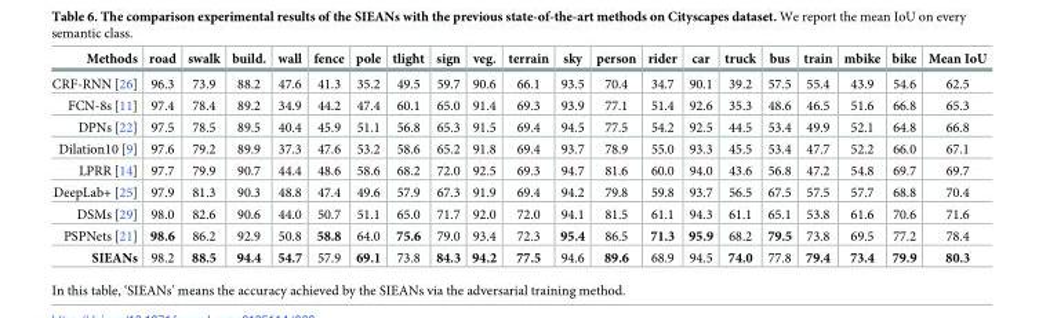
<table><thead><tr><td>Methods</td><td>road</td><td>swalk</td><td>build.</td><td>wall</td><td>fence</td><td>pole</td><td>tlight</td><td>sign</td><td>veg.</td><td>terrain</td><td>sky</td><td>person</td><td>rider</td><td>car</td><td>truck</td><td>bus</td><td>train</td><td>mbike</td><td>bike</td><td>Mean IoU</td></tr></thead><tbody><tr><td>CRF-RNN [26]</td><td>96.3</td><td>73.9</td><td>88.2</td><td>47.6</td><td>41.3</td><td>35.2</td><td>49.5</td><td>59.7</td><td>90.6</td><td>66.1</td><td>93.5</td><td>70.4</td><td>34.7</td><td>90.1</td><td>39.2</td><td>57.5</td><td>55.4</td><td>43.9</td><td>54.6</td><td>62.5</td></tr><tr><td>FCN-8s [11]</td><td>97.4</td><td>78.4</td><td>89.2</td><td>34.9</td><td>44.2</td><td>47.4</td><td>60.1</td><td>65.0</td><td>91.4</td><td>69.3</td><td>93.9</td><td>77.1</td><td>51.4</td><td>92.6</td><td>35.3</td><td>48.6</td><td>46.5</td><td>51.6</td><td>66.8</td><td>65.3</td></tr><tr><td>DPNs [22]</td><td>97.5</td><td>78.5</td><td>89.5</td><td>40.4</td><td>45.9</td><td>51.1</td><td>56.8</td><td>65.3</td><td>91.5</td><td>69.4</td><td>94.5</td><td>77.5</td><td>54.2</td><td>92.5</td><td>44.5</td><td>53.4</td><td>49.9</td><td>52.1</td><td>64.8</td><td>66.8</td></tr><tr><td>Dilation10 [9]</td><td>97.6</td><td>79.2</td><td>89.9</td><td>37.3</td><td>47.6</td><td>53.2</td><td>58.6</td><td>65.2</td><td>91.8</td><td>69.4</td><td>93.7</td><td>78.9</td><td>55.0</td><td>93.3</td><td>45.5</td><td>53.4</td><td>47.7</td><td>52.2</td><td>66.0</td><td>67.1</td></tr><tr><td>LPRR [14]</td><td>97.7</td><td>79.9</td><td>90.7</td><td>44.4</td><td>48.6</td><td>58.6</td><td>68.2</td><td>72.0</td><td>92.5</td><td>69.3</td><td>94.7</td><td>81.6</td><td>60.0</td><td>94.0</td><td>43.6</td><td>56.8</td><td>47.2</td><td>54.8</td><td>69.7</td><td>69.7</td></tr><tr><td>DeepLab+ [25]</td><td>97.9</td><td>81.3</td><td>90.3</td><td>48.8</td><td>47.4</td><td>49.6</td><td>57.9</td><td>67.3</td><td>91.9</td><td>69.4</td><td>94.2</td><td>79.8</td><td>59.8</td><td>93.7</td><td>56.5</td><td>67.5</td><td>57.5</td><td>57.7</td><td>68.8</td><td>70.4</td></tr><tr><td>DSMs [29]</td><td>98.0</td><td>82.6</td><td>90.6</td><td>44.0</td><td>50.7</td><td>51.1</td><td>65.0</td><td>71.7</td><td>92.0</td><td>72.0</td><td>94.1</td><td>81.5</td><td>61.1</td><td>94.3</td><td>61.1</td><td>65.1</td><td>53.8</td><td>61.6</td><td>70.6</td><td>71.6</td></tr><tr><td>PSPNets [21]</td><td>98.6</td><td>86.2</td><td>92.9</td><td>50.8</td><td>58.8</td><td>64.0</td><td>75.6</td><td>79.0</td><td>93.4</td><td>72.3</td><td>95.4</td><td>86.5</td><td>71.3</td><td>95.9</td><td>68.2</td><td>79.5</td><td>73.8</td><td>69.5</td><td>77.2</td><td>78.4</td></tr><tr><td>SIEANs</td><td>98.2</td><td>88.5</td><td>94.4</td><td>54.7</td><td>57.9</td><td>69.1</td><td>73.8</td><td>84.3</td><td>94.2</td><td>77.5</td><td>94.6</td><td>89.6</td><td>68.9</td><td>94.5</td><td>74.0</td><td>77.8</td><td>79.4</td><td>73.4</td><td>79.9</td><td>80.3</td></tr></tbody></table>